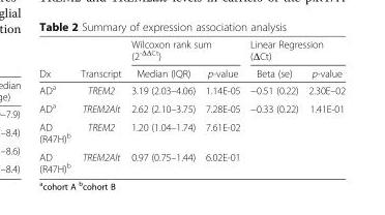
<table><thead><tr><td rowspan="2">Dx</td><td rowspan="2">Transcript</td><td colspan="2">Wilcoxon rank sum (2<sup>-ΔΔCt</sup>)</td><td colspan="2">Linear Regression (ΔCt)</td></tr><tr><td>Median (IQR)</td><td>p-value</td><td>Beta (se)</td><td>p-value</td></tr></thead><tbody><tr><td>AD<sup>a</sup></td><td>TREM2</td><td>3.19 (2.03–4.06)</td><td>1.14E-05</td><td>−0.51 (0.22)</td><td>2.30E–02</td></tr><tr><td>AD<sup>a</sup></td><td>TREM2Alt</td><td>2.62 (2.10–3.75)</td><td>7.28E-05</td><td>−0.33 (0.22)</td><td>1.41E-01</td></tr><tr><td>AD (R47H)<sup>b</sup></td><td>TREM2</td><td>1.20 (1.04–1.74)</td><td>7.61E-02</td><td></td><td></td></tr><tr><td>AD (R47H)<sup>b</sup></td><td>TREM2Alt</td><td>0.97 (0.75–1.44)</td><td>6.02E-01</td><td></td><td></td></tr></tbody></table>